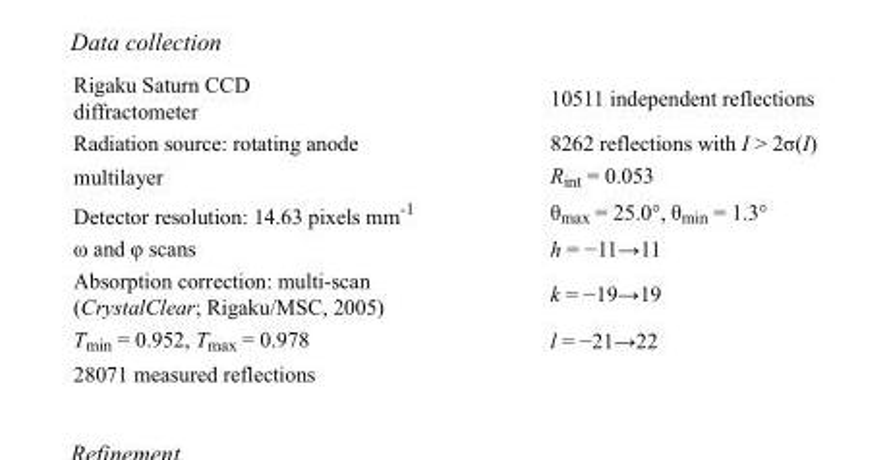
<table><tbody><tr><td>Rigaku Saturn CCD diffractometer</td><td>10511 independent reflections</td></tr><tr><td>Radiation source: rotating anode</td><td>8262 reflections with I &gt; 2σ(I)</td></tr><tr><td>multilayer</td><td>R<sub>int</sub> = 0.053</td></tr><tr><td>Detector resolution: 14.63 pixels mm<sup>-1</sup></td><td>θ<sub>max</sub> = 25.0°, θ<sub>min</sub> = 1.3°</td></tr><tr><td>ω and φ scans</td><td>h = −11→11</td></tr><tr><td>Absorption correction: multi-scan (CrystalClear; Rigaku/MSC, 2005)</td><td>k = −19→19</td></tr><tr><td>T<sub>min</sub> = 0.952, T<sub>max</sub> = 0.978</td><td>l = −21→22</td></tr><tr><td>28071 measured reflections</td><td></td></tr></tbody></table>